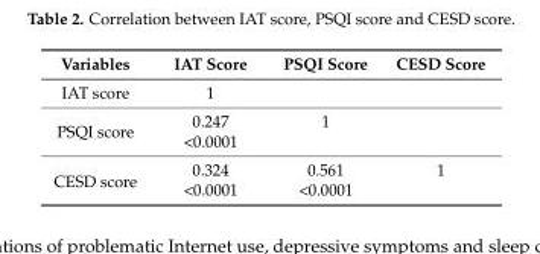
<table><thead><tr><td>Variables</td><td>IAT Score</td><td>PSQI Score</td><td>CESD Score</td></tr></thead><tbody><tr><td>IAT score</td><td>1</td><td></td><td></td></tr><tr><td rowspan="2">PSQI score</td><td>0.247</td><td>1</td><td></td></tr><tr><td>&lt;0.0001</td><td></td><td></td></tr><tr><td rowspan="2">CESD score</td><td>0.324</td><td>0.561</td><td>1</td></tr><tr><td>&lt;0.0001</td><td>&lt;0.0001</td><td></td></tr></tbody></table>